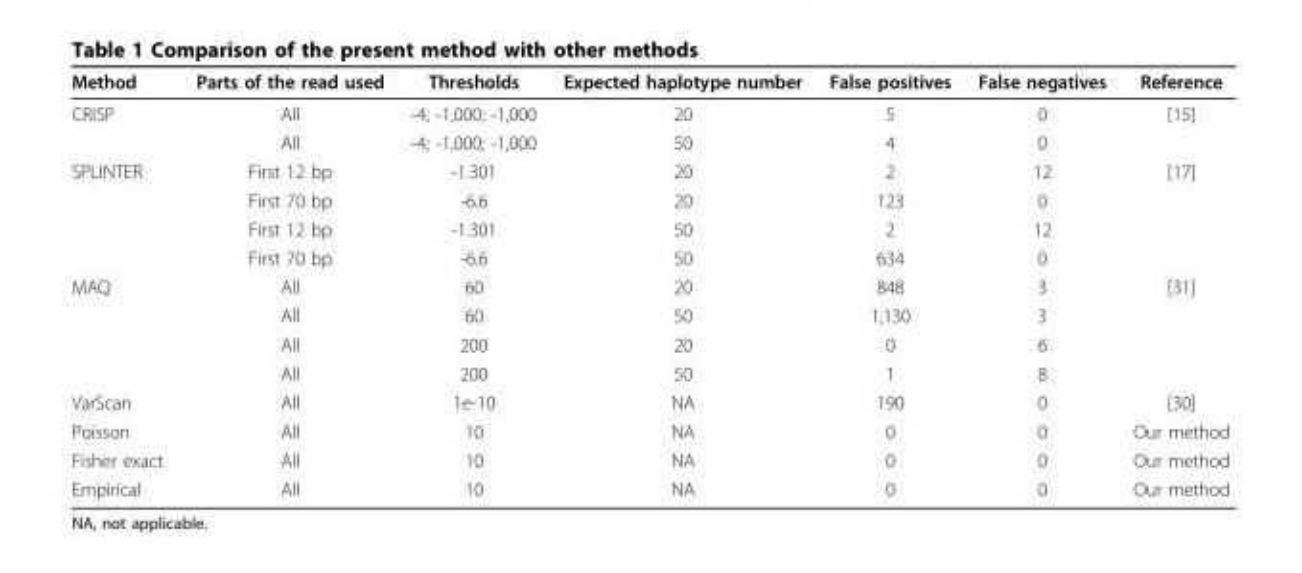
<table><thead><tr><td>Method</td><td>Parts of the read used</td><td>Thresholds</td><td>Expected haplotype number</td><td>False positives</td><td>False negatives</td><td>Reference</td></tr></thead><tbody><tr><td rowspan="2">CRISP</td><td>All</td><td>-4; -1,000; -1,000</td><td>20</td><td>5</td><td>0</td><td>[15]</td></tr><tr><td>All</td><td>-4; -1,000; -1,000</td><td>50</td><td>4</td><td>0</td><td></td></tr><tr><td rowspan="4">SPLINTER</td><td>First 12 bp</td><td>-1.301</td><td>20</td><td>2</td><td>12</td><td>[17]</td></tr><tr><td>First 70 bp</td><td>-6.6</td><td>20</td><td>123</td><td>0</td><td></td></tr><tr><td>First 12 bp</td><td>-1.301</td><td>50</td><td>2</td><td>12</td><td></td></tr><tr><td>First 70 bp</td><td>-6.6</td><td>50</td><td>634</td><td>0</td><td></td></tr><tr><td rowspan="4">MAQ</td><td>All</td><td>60</td><td>20</td><td>848</td><td>3</td><td>[31]</td></tr><tr><td>All</td><td>60</td><td>50</td><td>1,130</td><td>3</td><td></td></tr><tr><td>All</td><td>200</td><td>20</td><td>0</td><td>6</td><td></td></tr><tr><td>All</td><td>200</td><td>50</td><td>1</td><td>8</td><td></td></tr><tr><td>VarScan</td><td>All</td><td>1e-10</td><td>NA</td><td>190</td><td>0</td><td>[30]</td></tr><tr><td>Poisson</td><td>All</td><td>10</td><td>NA</td><td>0</td><td>0</td><td>Our method</td></tr><tr><td>Fisher exact</td><td>All</td><td>10</td><td>NA</td><td>0</td><td>0</td><td>Our method</td></tr><tr><td>Empirical</td><td>All</td><td>10</td><td>NA</td><td>0</td><td>0</td><td>Our method</td></tr></tbody></table>